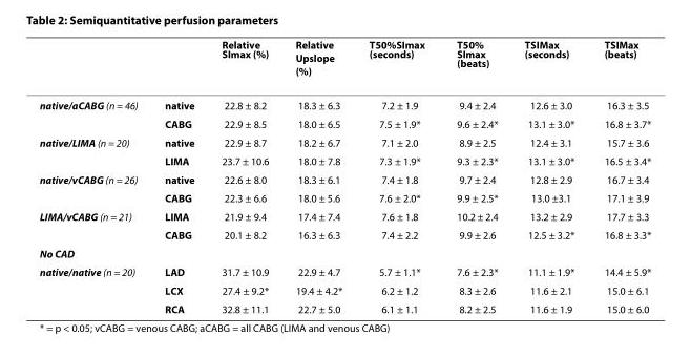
<table><thead><tr><td></td><td></td><td>Relative SI<sub>max</sub> (%)</td><td>Relative Upslope (%)</td><td>T<sub>50%SImax</sub> (seconds)</td><td>T<sub>50% SImax</sub> (beats)</td><td>T<sub>SIMax</sub> (seconds)</td><td>T<sub>SIMax</sub> (beats)</td></tr></thead><tbody><tr><td rowspan="2">native/aCABG (n = 46)</td><td>native</td><td>22.8 ± 8.2</td><td>18.3 ± 6.3</td><td>7.2 ± 1.9</td><td>9.4 ± 2.4</td><td>12.6 ± 3.0</td><td>16.3 ± 3.5</td></tr><tr><td>CABG</td><td>22.9 ± 8.5</td><td>18.0 ± 6.5</td><td>7.5 ± 1.9*</td><td>9.6 ± 2.4*</td><td>13.1 ± 3.0*</td><td>16.8 ± 3.7*</td></tr><tr><td rowspan="2">native/LIMA (n = 20)</td><td>native</td><td>22.9 ± 8.7</td><td>18.2 ± 6.7</td><td>7.1 ± 2.0</td><td>8.9 ± 2.5</td><td>12.4 ± 3.1</td><td>15.7 ± 3.6</td></tr><tr><td>LIMA</td><td>23.7 ± 10.6</td><td>18.0 ± 7.8</td><td>7.3 ± 1.9*</td><td>9.3 ± 2.3*</td><td>13.1 ± 3.0*</td><td>16.5 ± 3.4*</td></tr><tr><td rowspan="2">native/vCABG (n = 26)</td><td>native</td><td>22.6 ± 8.0</td><td>18.3 ± 6.1</td><td>7.4 ± 1.8</td><td>9.7 ± 2.4</td><td>12.8 ± 2.9</td><td>16.7 ± 3.4</td></tr><tr><td>CABG</td><td>22.3 ± 6.6</td><td>18.0 ± 5.6</td><td>7.6 ± 2.0*</td><td>9.9 ± 2.5*</td><td>13.0 ±3.1</td><td>17.1 ± 3.9</td></tr><tr><td rowspan="2">LIMA/vCABG (n = 21)</td><td>LIMA</td><td>21.9 ± 9.4</td><td>17.4 ± 7.4</td><td>7.6 ± 1.8</td><td>10.2 ± 2.4</td><td>13.2 ± 2.9</td><td>17.7 ± 3.3</td></tr><tr><td>CABG</td><td>20.1 ± 8.2</td><td>16.3 ± 6.3</td><td>7.4 ± 2.2</td><td>9.9 ± 2.6</td><td>12.5 ± 3.2*</td><td>16.8 ± 3.3*</td></tr><tr><td colspan="8">No CAD</td></tr><tr><td rowspan="3">native/native (n = 20)</td><td>LAD</td><td>31.7 ± 10.9</td><td>22.9 ± 4.7</td><td>5.7 ± 1.1*</td><td>7.6 ± 2.3*</td><td>11.1 ± 1.9*</td><td>14.4 ± 5.9*</td></tr><tr><td>LCX</td><td>27.4 ± 9.2*</td><td>19.4 ± 4.2*</td><td>6.2 ± 1.2</td><td>8.3 ± 2.6</td><td>11.6 ± 2.1</td><td>15.0 ± 6.1</td></tr><tr><td>RCA</td><td>32.8 ± 11.1</td><td>22.7 ± 5.0</td><td>6.1 ± 1.1</td><td>8.2 ± 2.5</td><td>11.6 ± 1.9</td><td>15.0 ± 6.0</td></tr></tbody></table>